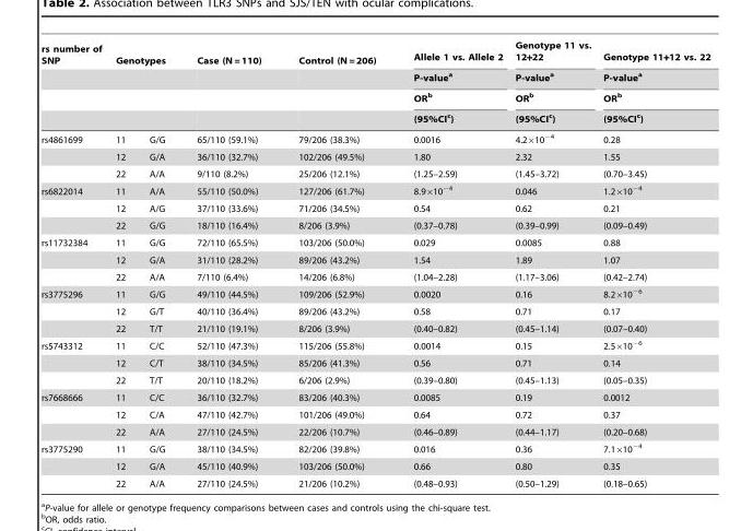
<table><thead><tr><td rowspan="4">rs number of SNP</td><td colspan="2">Genotypes</td><td rowspan="4">Case (N = 110)</td><td rowspan="4">Control (N = 206)</td><td rowspan="4">Allele 1 vs. Allele 2 P-value<sup>a</sup> OR<sup>b</sup> (95%CI<sup>c</sup>)</td><td rowspan="4">Genotype 11 vs. 12+22 P-value<sup>a</sup> OR<sup>b</sup> (95%CI<sup>c</sup>)</td><td rowspan="4">Genotype 11+12 vs. 22 P-value<sup>a</sup> OR<sup>b</sup> (95%CI<sup>c</sup>)</td></tr><tr><td rowspan="3"></td><td rowspan="3"></td></tr><tr></tr><tr></tr></thead><tbody><tr><td rowspan="3">rs4861699</td><td>11</td><td>G/G</td><td>65/110 (59.1%)</td><td>79/206 (38.3%)</td><td>0.0016</td><td>4.2×10<sup>−4</sup></td><td>0.28</td></tr><tr><td>12</td><td>G/A</td><td>36/110 (32.7%)</td><td>102/206 (49.5%)</td><td>1.80</td><td>2.32</td><td>1.55</td></tr><tr><td>22</td><td>A/A</td><td>9/110 (8.2%)</td><td>25/206 (12.1%)</td><td>(1.25–2.59)</td><td>(1.45–3.72)</td><td>(0.70–3.45)</td></tr><tr><td rowspan="3">rs6822014</td><td>11</td><td>A/A</td><td>55/110 (50.0%)</td><td>127/206 (61.7%)</td><td>8.9×10<sup>−4</sup></td><td>0.046</td><td>1.2×10<sup>−4</sup></td></tr><tr><td>12</td><td>A/G</td><td>37/110 (33.6%)</td><td>71/206 (34.5%)</td><td>0.54</td><td>0.62</td><td>0.21</td></tr><tr><td>22</td><td>G/G</td><td>18/110 (16.4%)</td><td>8/206 (3.9%)</td><td>(0.37–0.78)</td><td>(0.39–0.99)</td><td>(0.09–0.49)</td></tr><tr><td rowspan="3">rs11732384</td><td>11</td><td>G/G</td><td>72/110 (65.5%)</td><td>103/206 (50.0%)</td><td>0.029</td><td>0.0085</td><td>0.88</td></tr><tr><td>12</td><td>G/A</td><td>31/110 (28.2%)</td><td>89/206 (43.2%)</td><td>1.54</td><td>1.89</td><td>1.07</td></tr><tr><td>22</td><td>A/A</td><td>7/110 (6.4%)</td><td>14/206 (6.8%)</td><td>(1.04–2.28)</td><td>(1.17–3.06)</td><td>(0.42–2.74)</td></tr><tr><td rowspan="3">rs3775296</td><td>11</td><td>G/G</td><td>49/110 (44.5%)</td><td>109/206 (52.9%)</td><td>0.0020</td><td>0.16</td><td>8.2×10<sup>−6</sup></td></tr><tr><td>12</td><td>G/T</td><td>40/110 (36.4%)</td><td>89/206 (43.2%)</td><td>0.58</td><td>0.71</td><td>0.17</td></tr><tr><td>22</td><td>T/T</td><td>21/110 (19.1%)</td><td>8/206 (3.9%)</td><td>(0.40–0.82)</td><td>(0.45–1.14)</td><td>(0.07–0.40)</td></tr><tr><td rowspan="3">rs5743312</td><td>11</td><td>C/C</td><td>52/110 (47.3%)</td><td>115/206 (55.8%)</td><td>0.0014</td><td>0.15</td><td>2.5×10<sup>−6</sup></td></tr><tr><td>12</td><td>C/T</td><td>38/110 (34.5%)</td><td>85/206 (41.3%)</td><td>0.56</td><td>0.71</td><td>0.14</td></tr><tr><td>22</td><td>T/T</td><td>20/110 (18.2%)</td><td>6/206 (2.9%)</td><td>(0.39–0.80)</td><td>(0.45–1.13)</td><td>(0.05–0.35)</td></tr><tr><td rowspan="3">rs7668666</td><td>11</td><td>C/C</td><td>36/110 (32.7%)</td><td>83/206 (40.3%)</td><td>0.0085</td><td>0.19</td><td>0.0012</td></tr><tr><td>12</td><td>C/A</td><td>47/110 (42.7%)</td><td>101/206 (49.0%)</td><td>0.64</td><td>0.72</td><td>0.37</td></tr><tr><td>22</td><td>A/A</td><td>27/110 (24.5%)</td><td>22/206 (10.7%)</td><td>(0.46–0.89)</td><td>(0.44–1.17)</td><td>(0.20–0.68)</td></tr><tr><td rowspan="3">rs3775290</td><td>11</td><td>G/G</td><td>38/110 (34.5%)</td><td>82/206 (39.8%)</td><td>0.016</td><td>0.36</td><td>7.1×10<sup>−4</sup></td></tr><tr><td>12</td><td>G/A</td><td>45/110 (40.9%)</td><td>103/206 (50.0%)</td><td>0.66</td><td>0.80</td><td>0.35</td></tr><tr><td>22</td><td>A/A</td><td>27/110 (24.5%)</td><td>21/206 (10.2%)</td><td>(0.48–0.93)</td><td>(0.50–1.29)</td><td>(0.18–0.65)</td></tr></tbody></table>